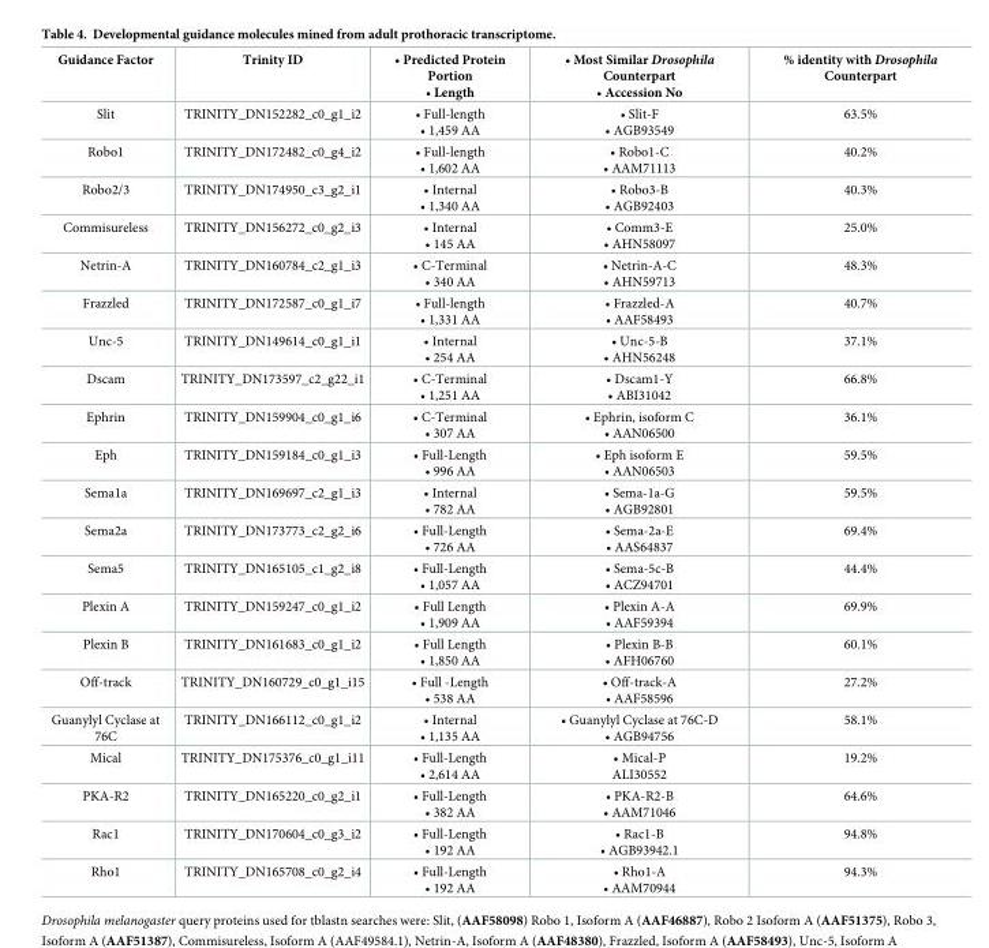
<table><thead><tr><td>Guidance Factor</td><td>Trinity ID</td><td>• Predicted Protein Portion • Length</td><td>• Most Similar Drosophila Counterpart • Accession No</td><td>% identity with Drosophila Counterpart</td></tr></thead><tbody><tr><td>Slit</td><td>TRINITY_DN152282_c0_g1_i2</td><td>• Full-length • 1,459 AA</td><td>• Slit-F • AGB93549</td><td>63.5%</td></tr><tr><td>Robo1</td><td>TRINITY_DN172482_c0_g4_i2</td><td>• Full-length • 1,602 AA</td><td>• Robo1-C • AAM71113</td><td>40.2%</td></tr><tr><td>Robo2/3</td><td>TRINITY_DN174950_c3_g2_i1</td><td>• Internal • 1,340 AA</td><td>• Robo3-B • AGB92403</td><td>40.3%</td></tr><tr><td>Commisureless</td><td>TRINITY_DN156272_c0_g2_i3</td><td>• Internal • 145 AA</td><td>• Comm3-E • AHN58097</td><td>25.0%</td></tr><tr><td>Netrin-A</td><td>TRINITY_DN160784_c2_g1_i3</td><td>• C-Terminal • 340 AA</td><td>• Netrin-A-C • AHN59713</td><td>48.3%</td></tr><tr><td>Frazzled</td><td>TRINITY_DN172587_c0_g1_i7</td><td>• Full-length • 1,331 AA</td><td>• Frazzled-A • AAF58493</td><td>40.7%</td></tr><tr><td>Unc-5</td><td>TRINITY_DN149614_c0_g1_i1</td><td>• Internal • 254 AA</td><td>• Unc-5-B • AHN56248</td><td>37.1%</td></tr><tr><td>Dscam</td><td>TRINITY_DN173597_c2_g22_i1</td><td>• C-Terminal • 1,251 AA</td><td>• Dscam1-Y • ABI31042</td><td>66.8%</td></tr><tr><td>Ephrin</td><td>TRINITY_DN159904_c0_g1_i6</td><td>• C-Terminal • 307 AA</td><td>• Ephrin, isoform C • AAN06500</td><td>36.1%</td></tr><tr><td>Eph</td><td>TRINITY_DN159184_c0_g1_i3</td><td>• Full-Length • 996 AA</td><td>• Eph isoform E • AAN06503</td><td>59.5%</td></tr><tr><td>Sema1a</td><td>TRINITY_DN169697_c2_g1_i3</td><td>• Internal • 782 AA</td><td>• Sema-1a-G • AGB92801</td><td>59.5%</td></tr><tr><td>Sema2a</td><td>TRINITY_DN173773_c2_g2_i6</td><td>• Full-Length • 726 AA</td><td>• Sema-2a-E • AAS64837</td><td>69.4%</td></tr><tr><td>Sema5</td><td>TRINITY_DN165105_c1_g2_i8</td><td>• Full-Length • 1,057 AA</td><td>• Sema-5c-B • ACZ94701</td><td>44.4%</td></tr><tr><td>Plexin A</td><td>TRINITY_DN159247_c0_g1_i2</td><td>• Full Length • 1,909 AA</td><td>• Plexin A-A • AAF59394</td><td>69.9%</td></tr><tr><td>Plexin B</td><td>TRINITY_DN161683_c0_g1_i2</td><td>• Full Length • 1,850 AA</td><td>• Plexin B-B • AFH06760</td><td>60.1%</td></tr><tr><td>Off-track</td><td>TRINITY_DN160729_c0_g1_i15</td><td>• Full -Length • 538 AA</td><td>• Off-track-A • AAF58596</td><td>27.2%</td></tr><tr><td>Guanylyl Cyclase at 76C</td><td>TRINITY_DN166112_c0_g1_i2</td><td>• Internal • 1,135 AA</td><td>• Guanylyl Cyclase at 76C-D • AGB94756</td><td>58.1%</td></tr><tr><td>Mical</td><td>TRINITY_DN175376_c0_g1_i11</td><td>• Full-Length • 2,614 AA</td><td>• Mical-P ALI30552</td><td>19.2%</td></tr><tr><td>PKA-R2</td><td>TRINITY_DN165220_c0_g2_i1</td><td>• Full-Length • 382 AA</td><td>• PKA-R2-B • AAM71046</td><td>64.6%</td></tr><tr><td>Rac1</td><td>TRINITY_DN170604_c0_g3_i2</td><td>• Full-Length • 192 AA</td><td>• Rac1-B • AGB93942.1</td><td>94.8%</td></tr><tr><td>Rho1</td><td>TRINITY_DN165708_c0_g2_i4</td><td>• Full-Length • 192 AA</td><td>• Rho1-A • AAM70944</td><td>94.3%</td></tr></tbody></table>